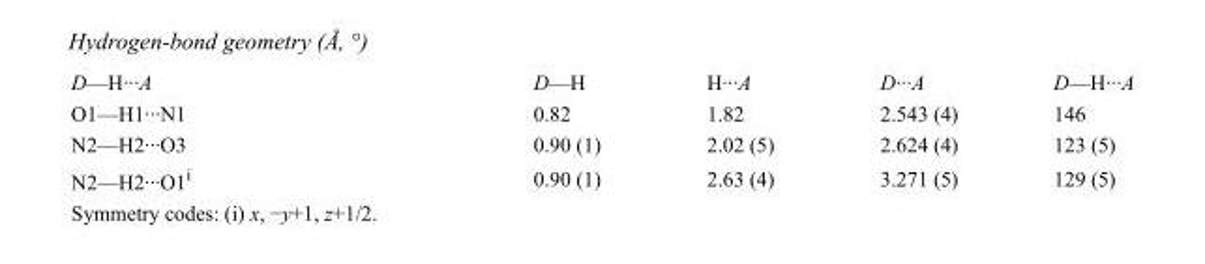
<table><tbody><tr><td>D—H···A</td><td>D—H</td><td>H···A</td><td>D···A</td><td>D—H···A</td></tr><tr><td>O1—H1···N1</td><td>0.82</td><td>1.82</td><td>2.543 (4)</td><td>146</td></tr><tr><td>N2—H2···O3</td><td>0.90 (1)</td><td>2.02 (5)</td><td>2.624 (4)</td><td>123 (5)</td></tr><tr><td>N2—H2···O1<sup>i</sup></td><td>0.90 (1)</td><td>2.63 (4)</td><td>3.271 (5)</td><td>129 (5)</td></tr></tbody></table>